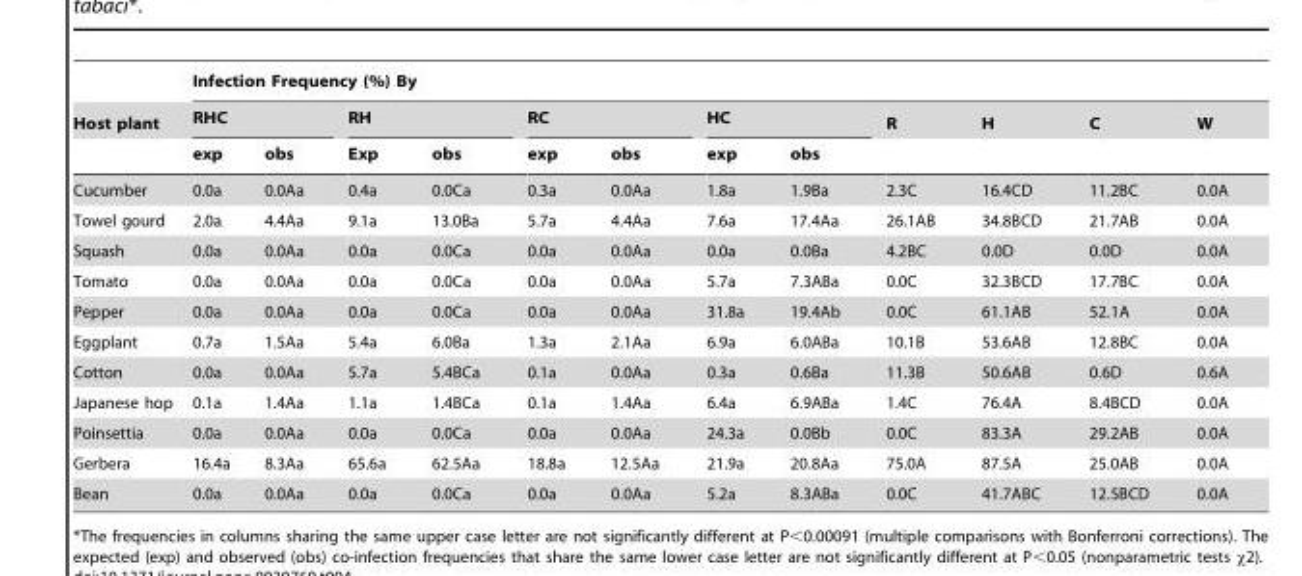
<table><thead><tr><td rowspan="3">Host plant</td><td colspan="12">Infection Frequency (%) By</td></tr><tr><td colspan="2">RHC</td><td colspan="2">RH</td><td colspan="2">RC</td><td colspan="2">HC</td><td rowspan="2">R</td><td rowspan="2">H</td><td rowspan="2">C</td><td rowspan="2">W</td></tr><tr><td>exp</td><td>obs</td><td>Exp</td><td>obs</td><td>exp</td><td>obs</td><td>exp</td><td>obs</td></tr></thead><tbody><tr><td>Cucumber</td><td>0.0a</td><td>0.0Aa</td><td>0.4a</td><td>0.0Ca</td><td>0.3a</td><td>0.0Aa</td><td>1.8a</td><td>1.9Ba</td><td>2.3C</td><td>16.4CD</td><td>11.2BC</td><td>0.0A</td></tr><tr><td>Towel gourd</td><td>2.0a</td><td>4.4Aa</td><td>9.1a</td><td>13.0Ba</td><td>5.7a</td><td>4.4Aa</td><td>7.6a</td><td>17.4Aa</td><td>26.1AB</td><td>34.8BCD</td><td>21.7AB</td><td>0.0A</td></tr><tr><td>Squash</td><td>0.0a</td><td>0.0Aa</td><td>0.0a</td><td>0.0Ca</td><td>0.0a</td><td>0.0Aa</td><td>0.0a</td><td>0.0Ba</td><td>4.2BC</td><td>0.0D</td><td>0.0D</td><td>0.0A</td></tr><tr><td>Tomato</td><td>0.0a</td><td>0.0Aa</td><td>0.0a</td><td>0.0Ca</td><td>0.0a</td><td>0.0Aa</td><td>5.7a</td><td>7.3ABa</td><td>0.0C</td><td>32.3BCD</td><td>17.7BC</td><td>0.0A</td></tr><tr><td>Pepper</td><td>0.0a</td><td>0.0Aa</td><td>0.0a</td><td>0.0Ca</td><td>0.0a</td><td>0.0Aa</td><td>31.8a</td><td>19.4Ab</td><td>0.0C</td><td>61.1AB</td><td>52.1A</td><td>0.0A</td></tr><tr><td>Eggplant</td><td>0.7a</td><td>1.5Aa</td><td>5.4a</td><td>6.0Ba</td><td>1.3a</td><td>2.1Aa</td><td>6.9a</td><td>6.0ABa</td><td>10.1B</td><td>53.6AB</td><td>12.8BC</td><td>0.0A</td></tr><tr><td>Cotton</td><td>0.0a</td><td>0.0Aa</td><td>5.7a</td><td>5.4BCa</td><td>0.1a</td><td>0.0Aa</td><td>0.3a</td><td>0.6Ba</td><td>11.3B</td><td>50.6AB</td><td>0.6D</td><td>0.6A</td></tr><tr><td>Japanese hop</td><td>0.1a</td><td>1.4Aa</td><td>1.1a</td><td>1.4BCa</td><td>0.1a</td><td>1.4Aa</td><td>6.4a</td><td>6.9ABa</td><td>1.4C</td><td>76.4A</td><td>8.4BCD</td><td>0.0A</td></tr><tr><td>Poinsettia</td><td>0.0a</td><td>0.0Aa</td><td>0.0a</td><td>0.0Ca</td><td>0.0a</td><td>0.0Aa</td><td>24.3a</td><td>0.0Bb</td><td>0.0C</td><td>83.3A</td><td>29.2AB</td><td>0.0A</td></tr><tr><td>Gerbera</td><td>16.4a</td><td>8.3Aa</td><td>65.6a</td><td>62.5Aa</td><td>18.8a</td><td>12.5Aa</td><td>21.9a</td><td>20.8Aa</td><td>75.0A</td><td>87.5A</td><td>25.0AB</td><td>0.0A</td></tr><tr><td>Bean</td><td>0.0a</td><td>0.0Aa</td><td>0.0a</td><td>0.0Ca</td><td>0.0a</td><td>0.0Aa</td><td>5.2a</td><td>8.3ABa</td><td>0.0C</td><td>41.7ABC</td><td>12.5BCD</td><td>0.0A</td></tr></tbody></table>